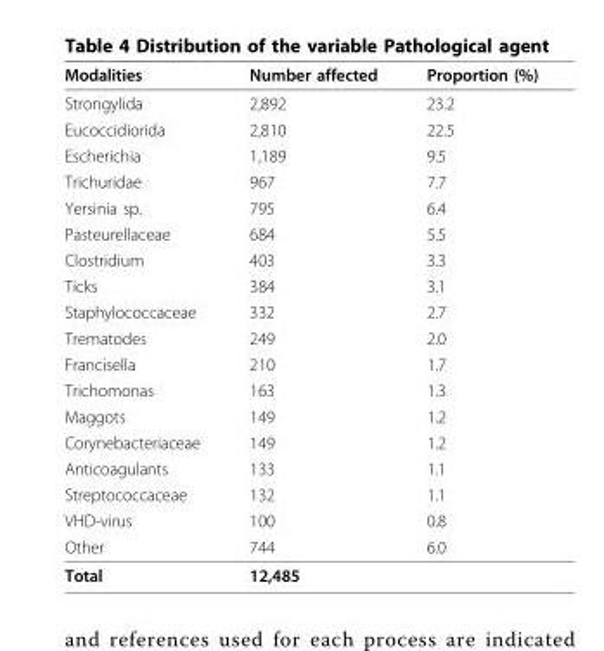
<table><thead><tr><td>Modalities</td><td>Number affected</td><td>Proportion (%)</td></tr></thead><tbody><tr><td>Strongylida</td><td>2,892</td><td>23.2</td></tr><tr><td>Eucoccidiorida</td><td>2,810</td><td>22.5</td></tr><tr><td>Escherichia</td><td>1,189</td><td>9.5</td></tr><tr><td>Trichuridae</td><td>967</td><td>7.7</td></tr><tr><td>Yersinia sp.</td><td>795</td><td>6.4</td></tr><tr><td>Pasteurellaceae</td><td>684</td><td>5.5</td></tr><tr><td>Clostridium</td><td>403</td><td>3.3</td></tr><tr><td>Ticks</td><td>384</td><td>3.1</td></tr><tr><td>Staphylococcaceae</td><td>332</td><td>2.7</td></tr><tr><td>Trematodes</td><td>249</td><td>2.0</td></tr><tr><td>Francisella</td><td>210</td><td>1.7</td></tr><tr><td>Trichomonas</td><td>163</td><td>1.3</td></tr><tr><td>Maggots</td><td>149</td><td>1.2</td></tr><tr><td>Corynebacteriaceae</td><td>149</td><td>1.2</td></tr><tr><td>Anticoagulants</td><td>133</td><td>1.1</td></tr><tr><td>Streptococcaceae</td><td>132</td><td>1.1</td></tr><tr><td>VHD-virus</td><td>100</td><td>0.8</td></tr><tr><td>Other</td><td>744</td><td>6.0</td></tr><tr><td>Total</td><td>12,485</td><td></td></tr></tbody></table>